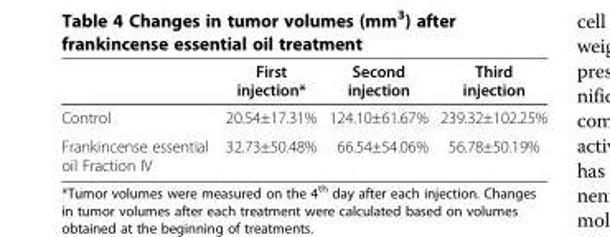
<table><thead><tr><td></td><td>First injection*</td><td>Second injection</td><td>Third injection</td></tr></thead><tbody><tr><td>Control</td><td>20.54±17.31%</td><td>124.10±61.67%</td><td>239.32±102.25%</td></tr><tr><td>Frankincense essential oil Fraction IV</td><td>32.73±50.48%</td><td>66.54±54.06%</td><td>56.78±50.19%</td></tr></tbody></table>